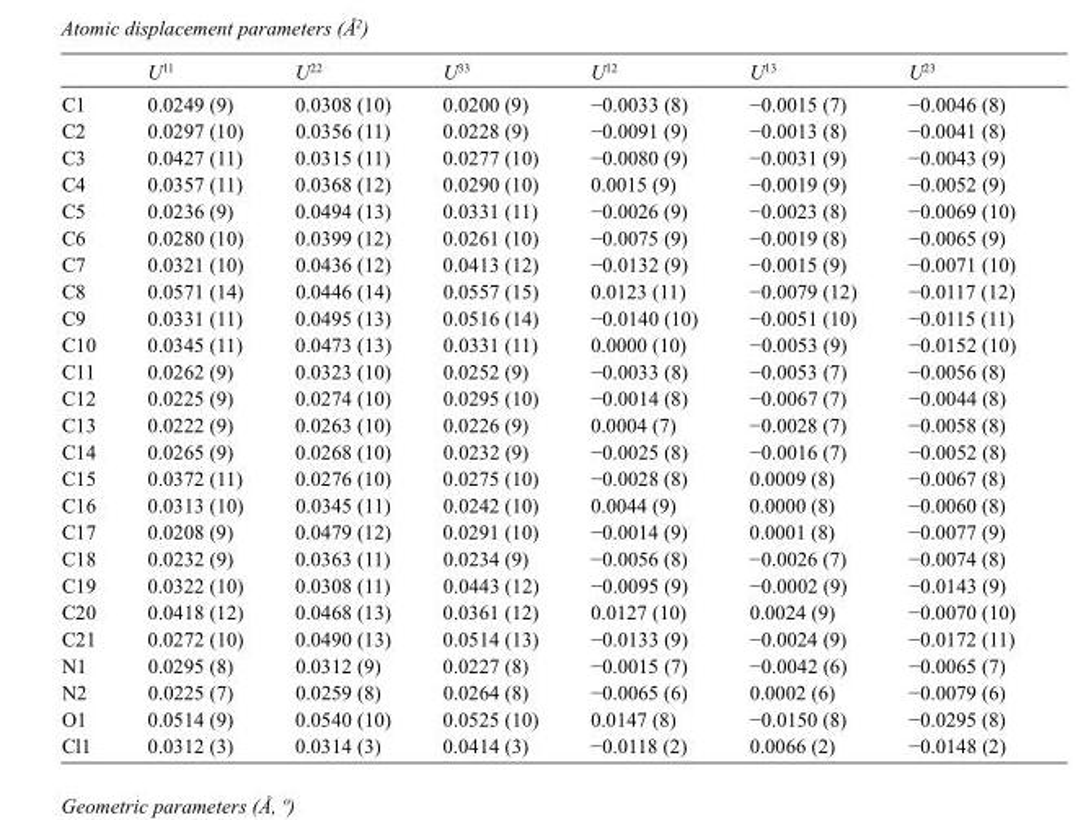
<table><thead><tr><td></td><td>U<sup>11</sup></td><td>U<sup>22</sup></td><td>U<sup>33</sup></td><td>U<sup>12</sup></td><td>U<sup>13</sup></td><td>U<sup>23</sup></td></tr></thead><tbody><tr><td>C1</td><td>0.0249 (9)</td><td>0.0308 (10)</td><td>0.0200 (9)</td><td>−0.0033 (8)</td><td>−0.0015 (7)</td><td>−0.0046 (8)</td></tr><tr><td>C2</td><td>0.0297 (10)</td><td>0.0356 (11)</td><td>0.0228 (9)</td><td>−0.0091 (9)</td><td>−0.0013 (8)</td><td>−0.0041 (8)</td></tr><tr><td>C3</td><td>0.0427 (11)</td><td>0.0315 (11)</td><td>0.0277 (10)</td><td>−0.0080 (9)</td><td>−0.0031 (9)</td><td>−0.0043 (9)</td></tr><tr><td>C4</td><td>0.0357 (11)</td><td>0.0368 (12)</td><td>0.0290 (10)</td><td>0.0015 (9)</td><td>−0.0019 (9)</td><td>−0.0052 (9)</td></tr><tr><td>C5</td><td>0.0236 (9)</td><td>0.0494 (13)</td><td>0.0331 (11)</td><td>−0.0026 (9)</td><td>−0.0023 (8)</td><td>−0.0069 (10)</td></tr><tr><td>C6</td><td>0.0280 (10)</td><td>0.0399 (12)</td><td>0.0261 (10)</td><td>−0.0075 (9)</td><td>−0.0019 (8)</td><td>−0.0065 (9)</td></tr><tr><td>C7</td><td>0.0321 (10)</td><td>0.0436 (12)</td><td>0.0413 (12)</td><td>−0.0132 (9)</td><td>−0.0015 (9)</td><td>−0.0071 (10)</td></tr><tr><td>C8</td><td>0.0571 (14)</td><td>0.0446 (14)</td><td>0.0557 (15)</td><td>0.0123 (11)</td><td>−0.0079 (12)</td><td>−0.0117 (12)</td></tr><tr><td>C9</td><td>0.0331 (11)</td><td>0.0495 (13)</td><td>0.0516 (14)</td><td>−0.0140 (10)</td><td>−0.0051 (10)</td><td>−0.0115 (11)</td></tr><tr><td>C10</td><td>0.0345 (11)</td><td>0.0473 (13)</td><td>0.0331 (11)</td><td>0.0000 (10)</td><td>−0.0053 (9)</td><td>−0.0152 (10)</td></tr><tr><td>C11</td><td>0.0262 (9)</td><td>0.0323 (10)</td><td>0.0252 (9)</td><td>−0.0033 (8)</td><td>−0.0053 (7)</td><td>−0.0056 (8)</td></tr><tr><td>C12</td><td>0.0225 (9)</td><td>0.0274 (10)</td><td>0.0295 (10)</td><td>−0.0014 (8)</td><td>−0.0067 (7)</td><td>−0.0044 (8)</td></tr><tr><td>C13</td><td>0.0222 (9)</td><td>0.0263 (10)</td><td>0.0226 (9)</td><td>0.0004 (7)</td><td>−0.0028 (7)</td><td>−0.0058 (8)</td></tr><tr><td>C14</td><td>0.0265 (9)</td><td>0.0268 (10)</td><td>0.0232 (9)</td><td>−0.0025 (8)</td><td>−0.0016 (7)</td><td>−0.0052 (8)</td></tr><tr><td>C15</td><td>0.0372 (11)</td><td>0.0276 (10)</td><td>0.0275 (10)</td><td>−0.0028 (8)</td><td>0.0009 (8)</td><td>−0.0067 (8)</td></tr><tr><td>C16</td><td>0.0313 (10)</td><td>0.0345 (11)</td><td>0.0242 (10)</td><td>0.0044 (9)</td><td>0.0000 (8)</td><td>−0.0060 (8)</td></tr><tr><td>C17</td><td>0.0208 (9)</td><td>0.0479 (12)</td><td>0.0291 (10)</td><td>−0.0014 (9)</td><td>0.0001 (8)</td><td>−0.0077 (9)</td></tr><tr><td>C18</td><td>0.0232 (9)</td><td>0.0363 (11)</td><td>0.0234 (9)</td><td>−0.0056 (8)</td><td>−0.0026 (7)</td><td>−0.0074 (8)</td></tr><tr><td>C19</td><td>0.0322 (10)</td><td>0.0308 (11)</td><td>0.0443 (12)</td><td>−0.0095 (9)</td><td>−0.0002 (9)</td><td>−0.0143 (9)</td></tr><tr><td>C20</td><td>0.0418 (12)</td><td>0.0468 (13)</td><td>0.0361 (12)</td><td>0.0127 (10)</td><td>0.0024 (9)</td><td>−0.0070 (10)</td></tr><tr><td>C21</td><td>0.0272 (10)</td><td>0.0490 (13)</td><td>0.0514 (13)</td><td>−0.0133 (9)</td><td>−0.0024 (9)</td><td>−0.0172 (11)</td></tr><tr><td>N1</td><td>0.0295 (8)</td><td>0.0312 (9)</td><td>0.0227 (8)</td><td>−0.0015 (7)</td><td>−0.0042 (6)</td><td>−0.0065 (7)</td></tr><tr><td>N2</td><td>0.0225 (7)</td><td>0.0259 (8)</td><td>0.0264 (8)</td><td>−0.0065 (6)</td><td>0.0002 (6)</td><td>−0.0079 (6)</td></tr><tr><td>O1</td><td>0.0514 (9)</td><td>0.0540 (10)</td><td>0.0525 (10)</td><td>0.0147 (8)</td><td>−0.0150 (8)</td><td>−0.0295 (8)</td></tr><tr><td>Cl1</td><td>0.0312 (3)</td><td>0.0314 (3)</td><td>0.0414 (3)</td><td>−0.0118 (2)</td><td>0.0066 (2)</td><td>−0.0148 (2)</td></tr></tbody></table>